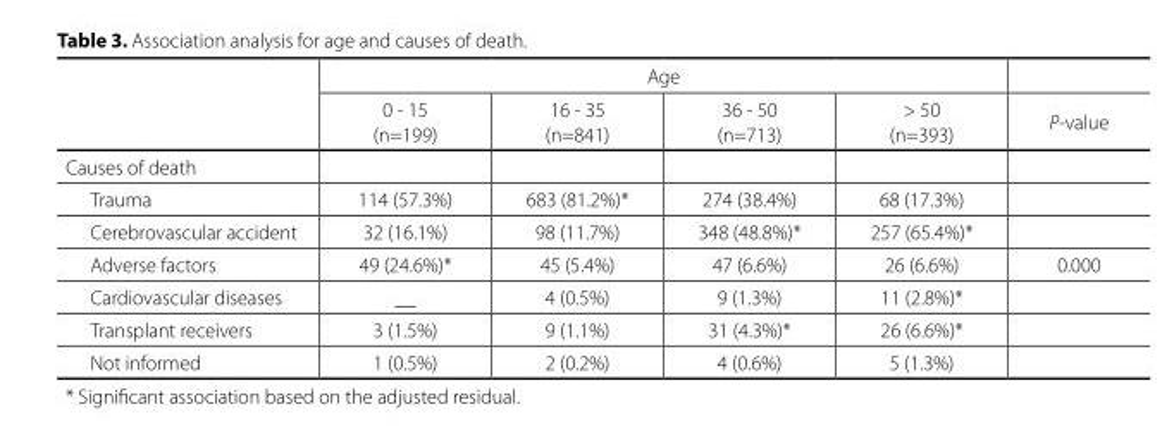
<table><thead><tr><td rowspan="2"></td><td colspan="4">Age</td><td rowspan="2">P-value</td></tr><tr><td>0 - 15 (n=199)</td><td>16 - 35 (n=841)</td><td>36 - 50 (n=713)</td><td>&gt; 50 (n=393)</td></tr></thead><tbody><tr><td colspan="6">Causes of death</td></tr><tr><td>Trauma</td><td>114 (57.3%)</td><td>683 (81.2%)*</td><td>274 (38.4%)</td><td>68 (17.3%)</td><td></td></tr><tr><td>Cerebrovascular accident</td><td>32 (16.1%)</td><td>98 (11.7%)</td><td>348 (48.8%)*</td><td>257 (65.4%)*</td><td></td></tr><tr><td>Adverse factors</td><td>49 (24.6%)*</td><td>45 (5.4%)</td><td>47 (6.6%)</td><td>26 (6.6%)</td><td>0.000</td></tr><tr><td>Cardiovascular diseases</td><td>__</td><td>4 (0.5%)</td><td>9 (1.3%)</td><td>11 (2.8%)*</td><td></td></tr><tr><td>Transplant receivers</td><td>3 (1.5%)</td><td>9 (1.1%)</td><td>31 (4.3%)*</td><td>26 (6.6%)*</td><td></td></tr><tr><td>Not informed</td><td>1 (0.5%)</td><td>2 (0.2%)</td><td>4 (0.6%)</td><td>5 (1.3%)</td><td></td></tr></tbody></table>